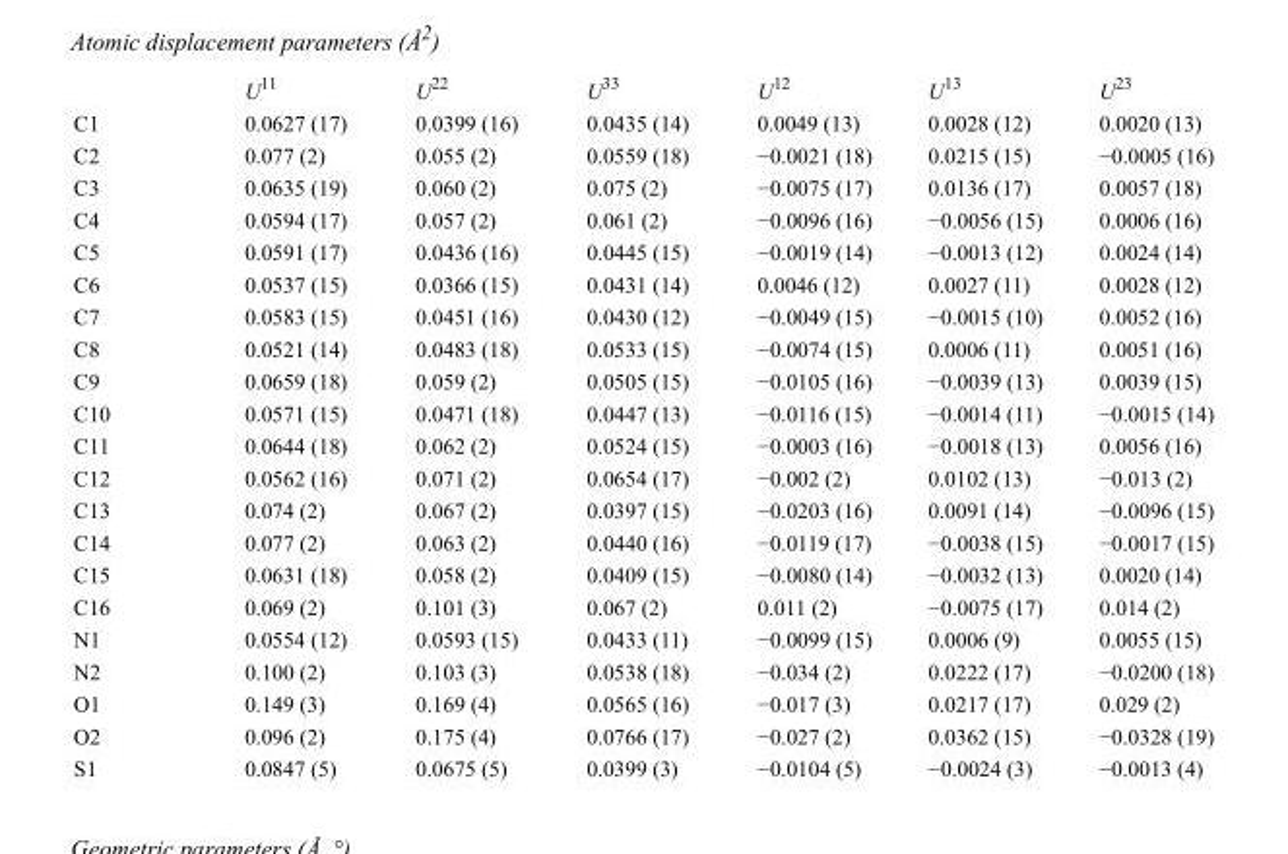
<table><thead><tr><td></td><td>U<sup>11</sup></td><td>U<sup>22</sup></td><td>U<sup>33</sup></td><td>U<sup>12</sup></td><td>U<sup>13</sup></td><td>U<sup>23</sup></td></tr></thead><tbody><tr><td>C1</td><td>0.0627 (17)</td><td>0.0399 (16)</td><td>0.0435 (14)</td><td>0.0049 (13)</td><td>0.0028 (12)</td><td>0.0020 (13)</td></tr><tr><td>C2</td><td>0.077 (2)</td><td>0.055 (2)</td><td>0.0559 (18)</td><td>−0.0021 (18)</td><td>0.0215 (15)</td><td>−0.0005 (16)</td></tr><tr><td>C3</td><td>0.0635 (19)</td><td>0.060 (2)</td><td>0.075 (2)</td><td>−0.0075 (17)</td><td>0.0136 (17)</td><td>0.0057 (18)</td></tr><tr><td>C4</td><td>0.0594 (17)</td><td>0.057 (2)</td><td>0.061 (2)</td><td>−0.0096 (16)</td><td>−0.0056 (15)</td><td>0.0006 (16)</td></tr><tr><td>C5</td><td>0.0591 (17)</td><td>0.0436 (16)</td><td>0.0445 (15)</td><td>−0.0019 (14)</td><td>−0.0013 (12)</td><td>0.0024 (14)</td></tr><tr><td>C6</td><td>0.0537 (15)</td><td>0.0366 (15)</td><td>0.0431 (14)</td><td>0.0046 (12)</td><td>0.0027 (11)</td><td>0.0028 (12)</td></tr><tr><td>C7</td><td>0.0583 (15)</td><td>0.0451 (16)</td><td>0.0430 (12)</td><td>−0.0049 (15)</td><td>−0.0015 (10)</td><td>0.0052 (16)</td></tr><tr><td>C8</td><td>0.0521 (14)</td><td>0.0483 (18)</td><td>0.0533 (15)</td><td>−0.0074 (15)</td><td>0.0006 (11)</td><td>0.0051 (16)</td></tr><tr><td>C9</td><td>0.0659 (18)</td><td>0.059 (2)</td><td>0.0505 (15)</td><td>−0.0105 (16)</td><td>−0.0039 (13)</td><td>0.0039 (15)</td></tr><tr><td>C10</td><td>0.0571 (15)</td><td>0.0471 (18)</td><td>0.0447 (13)</td><td>−0.0116 (15)</td><td>−0.0014 (11)</td><td>−0.0015 (14)</td></tr><tr><td>C11</td><td>0.0644 (18)</td><td>0.062 (2)</td><td>0.0524 (15)</td><td>−0.0003 (16)</td><td>−0.0018 (13)</td><td>0.0056 (16)</td></tr><tr><td>C12</td><td>0.0562 (16)</td><td>0.071 (2)</td><td>0.0654 (17)</td><td>−0.002 (2)</td><td>0.0102 (13)</td><td>−0.013 (2)</td></tr><tr><td>C13</td><td>0.074 (2)</td><td>0.067 (2)</td><td>0.0397 (15)</td><td>−0.0203 (16)</td><td>0.0091 (14)</td><td>−0.0096 (15)</td></tr><tr><td>C14</td><td>0.077 (2)</td><td>0.063 (2)</td><td>0.0440 (16)</td><td>−0.0119 (17)</td><td>−0.0038 (15)</td><td>−0.0017 (15)</td></tr><tr><td>C15</td><td>0.0631 (18)</td><td>0.058 (2)</td><td>0.0409 (15)</td><td>−0.0080 (14)</td><td>−0.0032 (13)</td><td>0.0020 (14)</td></tr><tr><td>C16</td><td>0.069 (2)</td><td>0.101 (3)</td><td>0.067 (2)</td><td>0.011 (2)</td><td>−0.0075 (17)</td><td>0.014 (2)</td></tr><tr><td>N1</td><td>0.0554 (12)</td><td>0.0593 (15)</td><td>0.0433 (11)</td><td>−0.0099 (15)</td><td>0.0006 (9)</td><td>0.0055 (15)</td></tr><tr><td>N2</td><td>0.100 (2)</td><td>0.103 (3)</td><td>0.0538 (18)</td><td>−0.034 (2)</td><td>0.0222 (17)</td><td>−0.0200 (18)</td></tr><tr><td>O1</td><td>0.149 (3)</td><td>0.169 (4)</td><td>0.0565 (16)</td><td>−0.017 (3)</td><td>0.0217 (17)</td><td>0.029 (2)</td></tr><tr><td>O2</td><td>0.096 (2)</td><td>0.175 (4)</td><td>0.0766 (17)</td><td>−0.027 (2)</td><td>0.0362 (15)</td><td>−0.0328 (19)</td></tr><tr><td>S1</td><td>0.0847 (5)</td><td>0.0675 (5)</td><td>0.0399 (3)</td><td>−0.0104 (5)</td><td>−0.0024 (3)</td><td>−0.0013 (4)</td></tr></tbody></table>